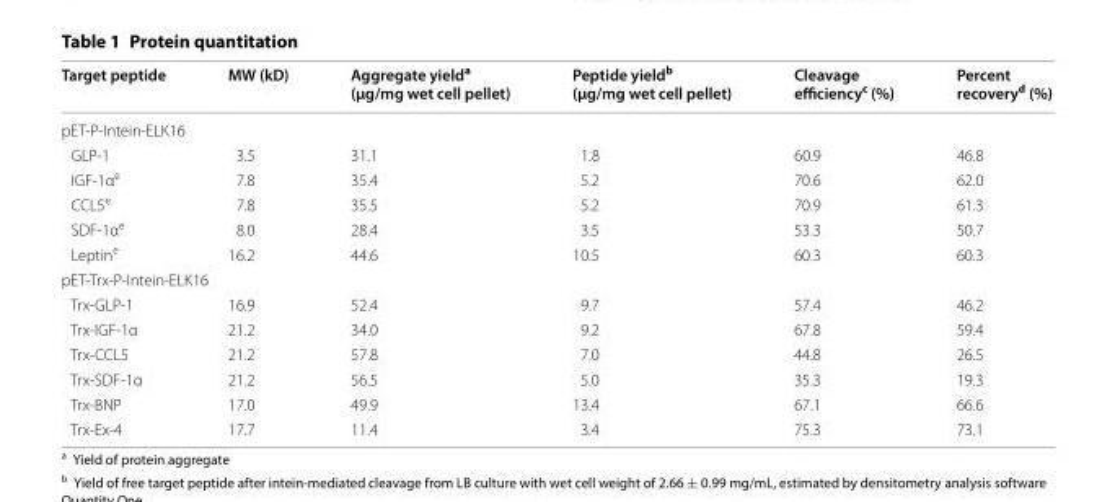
<table><thead><tr><td>Target peptide</td><td>MW (kD)</td><td>Aggregate yield<sup>a</sup> (μg/mg wet cell pellet)</td><td>Peptide yield<sup>b</sup> (μg/mg wet cell pellet)</td><td>Cleavage efficiency<sup>c</sup> (%)</td><td>Percent recovery<sup>d</sup> (%)</td></tr></thead><tbody><tr><td colspan="6">pET-P-Intein-ELK16</td></tr><tr><td>GLP-1</td><td>3.5</td><td>31.1</td><td>1.8</td><td>60.9</td><td>46.8</td></tr><tr><td>IGF-1α<sup>e</sup></td><td>7.8</td><td>35.4</td><td>5.2</td><td>70.6</td><td>62.0</td></tr><tr><td>CCL5<sup>e</sup></td><td>7.8</td><td>35.5</td><td>5.2</td><td>70.9</td><td>61.3</td></tr><tr><td>SDF-1α<sup>e</sup></td><td>8.0</td><td>28.4</td><td>3.5</td><td>53.3</td><td>50.7</td></tr><tr><td>Leptin<sup>e</sup></td><td>16.2</td><td>44.6</td><td>10.5</td><td>60.3</td><td>60.3</td></tr><tr><td colspan="6">pET-Trx-P-Intein-ELK16</td></tr><tr><td>Trx-GLP-1</td><td>16.9</td><td>52.4</td><td>9.7</td><td>57.4</td><td>46.2</td></tr><tr><td>Trx-IGF-1α</td><td>21.2</td><td>34.0</td><td>9.2</td><td>67.8</td><td>59.4</td></tr><tr><td>Trx-CCL5</td><td>21.2</td><td>57.8</td><td>7.0</td><td>44.8</td><td>26.5</td></tr><tr><td>Trx-SDF-1α</td><td>21.2</td><td>56.5</td><td>5.0</td><td>35.3</td><td>19.3</td></tr><tr><td>Trx-BNP</td><td>17.0</td><td>49.9</td><td>13.4</td><td>67.1</td><td>66.6</td></tr><tr><td>Trx-Ex-4</td><td>17.7</td><td>11.4</td><td>3.4</td><td>75.3</td><td>73.1</td></tr></tbody></table>